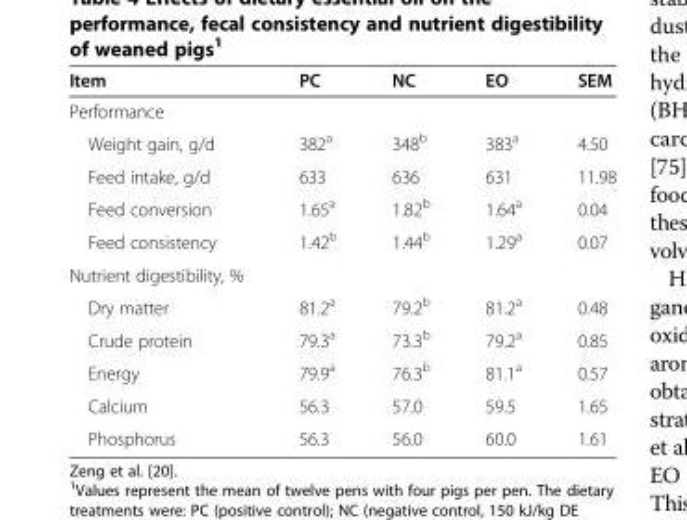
<table><thead><tr><td>Item</td><td>PC</td><td>NC</td><td>EO</td><td>SEM</td></tr></thead><tbody><tr><td colspan="5">Performance</td></tr><tr><td>Weight gain, g/d</td><td>382<sup>a</sup></td><td>348<sup>b</sup></td><td>383<sup>a</sup></td><td>4.50</td></tr><tr><td>Feed intake, g/d</td><td>633</td><td>636</td><td>631</td><td>11.98</td></tr><tr><td>Feed conversion</td><td>1.65<sup>a</sup></td><td>1.82<sup>b</sup></td><td>1.64<sup>a</sup></td><td>0.04</td></tr><tr><td>Feed consistency</td><td>1.42<sup>b</sup></td><td>1.44<sup>b</sup></td><td>1.29<sup>a</sup></td><td>0.07</td></tr><tr><td colspan="5">Nutrient digestibility, %</td></tr><tr><td>Dry matter</td><td>81.2<sup>a</sup></td><td>79.2<sup>b</sup></td><td>81.2<sup>a</sup></td><td>0.48</td></tr><tr><td>Crude protein</td><td>79.3<sup>a</sup></td><td>73.3<sup>b</sup></td><td>79.2<sup>a</sup></td><td>0.85</td></tr><tr><td>Energy</td><td>79.9<sup>a</sup></td><td>76.3<sup>b</sup></td><td>81.1<sup>a</sup></td><td>0.57</td></tr><tr><td>Calcium</td><td>56.3</td><td>57.0</td><td>59.5</td><td>1.65</td></tr><tr><td>Phosphorus</td><td>56.3</td><td>56.0</td><td>60.0</td><td>1.61</td></tr></tbody></table>